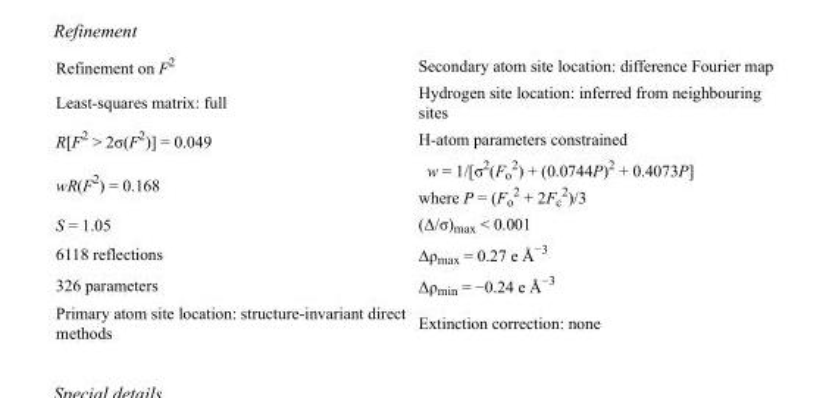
<table><tbody><tr><td>Refinement on F<sup>2</sup></td><td>Secondary atom site location: difference Fourier map</td></tr><tr><td>Least-squares matrix: full</td><td>Hydrogen site location: inferred from neighbouring sites</td></tr><tr><td>R[F<sup>2</sup> &gt; 2σ(F<sup>2</sup>)] = 0.049</td><td>H-atom parameters constrained</td></tr><tr><td>wR(F<sup>2</sup>) = 0.168</td><td>w = 1/[σ<sup>2</sup>(F<sub>o</sub> <sup>2</sup>) + (0.0744P)<sup>2</sup> + 0.4073P] where P = (F<sub>o</sub> <sup>2</sup> + 2F<sub>c</sub> <sup>2</sup>)/3</td></tr><tr><td>S = 1.05</td><td>(Δ/σ)<sub>max</sub> &lt; 0.001</td></tr><tr><td>6118 reflections</td><td>Δρ<sub>max</sub> = 0.27 e Å<sup>−3</sup></td></tr><tr><td>326 parameters</td><td>Δρ<sub>min</sub> = −0.24 e Å<sup>−3</sup></td></tr><tr><td>Primary atom site location: structure-invariant direct methods</td><td>Extinction correction: none</td></tr></tbody></table>